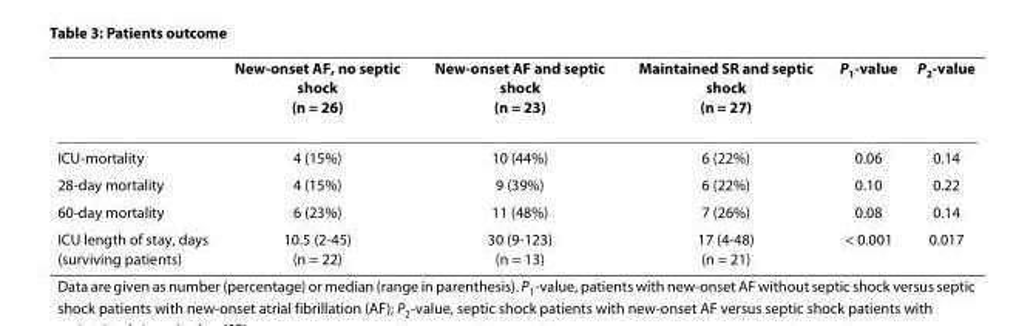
<table><thead><tr><td></td><td>New-onset AF, no septic shock (n = 26)</td><td>New-onset AF and septic shock (n = 23)</td><td>Maintained SR and septic shock (n = 27)</td><td>P<sub>1</sub>-value</td><td>P<sub>2</sub>-value</td></tr></thead><tbody><tr><td>ICU-mortality</td><td>4 (15%)</td><td>10 (44%)</td><td>6 (22%)</td><td>0.06</td><td>0.14</td></tr><tr><td>28-day mortality</td><td>4 (15%)</td><td>9 (39%)</td><td>6 (22%)</td><td>0.10</td><td>0.22</td></tr><tr><td>60-day mortality</td><td>6 (23%)</td><td>11 (48%)</td><td>7 (26%)</td><td>0.08</td><td>0.14</td></tr><tr><td>ICU length of stay, days (surviving patients)</td><td>10.5 (2-45) (n = 22)</td><td>30 (9-123) (n = 13)</td><td>17 (4-48) (n = 21)</td><td>&lt; 0.001</td><td>0.017</td></tr></tbody></table>